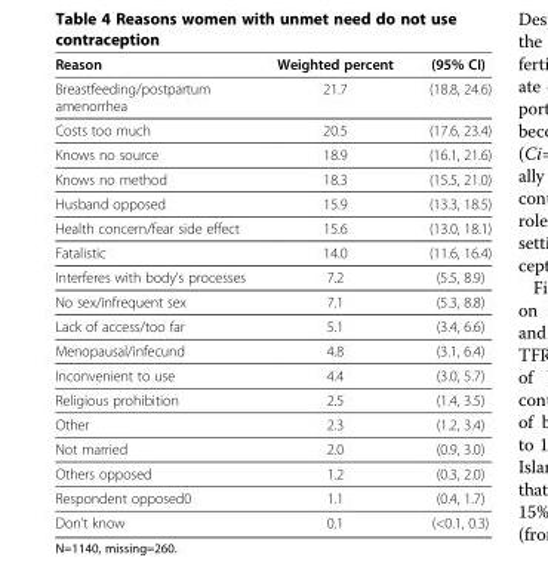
<table><thead><tr><td>Reason</td><td>Weighted percent</td><td>(95% CI)</td></tr></thead><tbody><tr><td>Breastfeeding/postpartum amenorrhea</td><td>21.7</td><td>(18.8, 24.6)</td></tr><tr><td>Costs too much</td><td>20.5</td><td>(17.6, 23.4)</td></tr><tr><td>Knows no source</td><td>18.9</td><td>(16.1, 21.6)</td></tr><tr><td>Knows no method</td><td>18.3</td><td>(15.5, 21.0)</td></tr><tr><td>Husband opposed</td><td>15.9</td><td>(13.3, 18.5)</td></tr><tr><td>Health concern/fear side effect</td><td>15.6</td><td>(13.0, 18.1)</td></tr><tr><td>Fatalistic</td><td>14.0</td><td>(11.6, 16.4)</td></tr><tr><td>Interferes with body’s processes</td><td>7.2</td><td>(5.5, 8.9)</td></tr><tr><td>No sex/infrequent sex</td><td>7.1</td><td>(5.3, 8.8)</td></tr><tr><td>Lack of access/too far</td><td>5.1</td><td>(3.4, 6.6)</td></tr><tr><td>Menopausal/infecund</td><td>4.8</td><td>(3.1, 6.4)</td></tr><tr><td>Inconvenient to use</td><td>4.4</td><td>(3.0, 5.7)</td></tr><tr><td>Religious prohibition</td><td>2.5</td><td>(1.4, 3.5)</td></tr><tr><td>Other</td><td>2.3</td><td>(1.2, 3.4)</td></tr><tr><td>Not married</td><td>2.0</td><td>(0.9, 3.0)</td></tr><tr><td>Others opposed</td><td>1.2</td><td>(0.3, 2.0)</td></tr><tr><td>Respondent opposed0</td><td>1.1</td><td>(0.4, 1.7)</td></tr><tr><td>Don’t know</td><td>0.1</td><td>(&lt;0.1, 0.3)</td></tr></tbody></table>